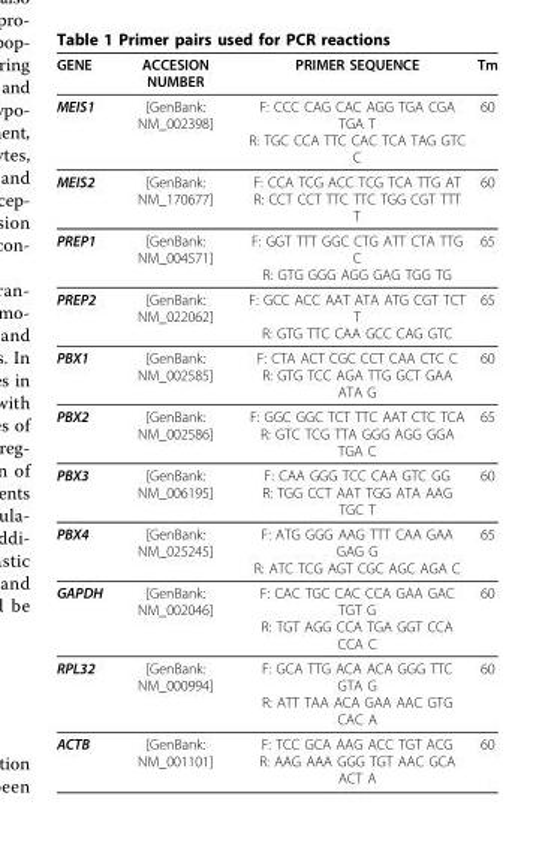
<table><thead><tr><td>GENE</td><td>ACCESION NUMBER</td><td>PRIMER SEQUENCE</td><td>Tm</td></tr></thead><tbody><tr><td>MEIS1</td><td>[GenBank: NM_002398]</td><td>F: CCC CAG CAC AGG TGA CGA TGA T R: TGC CCA TTC CAC TCA TAG GTC C</td><td>60</td></tr><tr><td>MEIS2</td><td>[GenBank: NM_170677]</td><td>F: CCA TCG ACC TCG TCA TTG AT R: CCT CCT TTC TTC TGG CGT TTT T</td><td>60</td></tr><tr><td>PREP1</td><td>[GenBank: NM_004571]</td><td>F: GGT TTT GGC CTG ATT CTA TTG C R: GTG GGG AGG GAG TGG TG</td><td>65</td></tr><tr><td>PREP2</td><td>[GenBank: NM_022062]</td><td>F: GCC ACC AAT ATA ATG CGT TCT T R: GTG TTC CAA GCC CAG GTC</td><td>65</td></tr><tr><td>PBX1</td><td>[GenBank: NM_002585]</td><td>F: CTA ACT CGC CCT CAA CTC C R: GTG TCC AGA TTG GCT GAA ATA G</td><td>60</td></tr><tr><td>PBX2</td><td>[GenBank: NM_002586]</td><td>F: GGC GGC TCT TTC AAT CTC TCA R: GTC TCG TTA GGG AGG GGA TGA C</td><td>65</td></tr><tr><td>PBX3</td><td>[GenBank: NM_006195]</td><td>F: CAA GGG TCC CAA GTC GG R: TGG CCT AAT TGG ATA AAG TGC T</td><td>60</td></tr><tr><td>PBX4</td><td>[GenBank: NM_025245]</td><td>F: ATG GGG AAG TTT CAA GAA GAG G R: ATC TCG AGT CGC AGC AGA C</td><td>65</td></tr><tr><td>GAPDH</td><td>[GenBank: NM_002046]</td><td>F: CAC TGC CAC CCA GAA GAC TGT G R: TGT AGG CCA TGA GGT CCA CCA C</td><td>60</td></tr><tr><td>RPL32</td><td>[GenBank: NM_000994]</td><td>F: GCA TTG ACA ACA GGG TTC GTA G R: ATT TAA ACA GAA AAC GTG CAC A</td><td>60</td></tr><tr><td>ACTB</td><td>[GenBank: NM_001101]</td><td>F: TCC GCA AAG ACC TGT ACG R: AAG AAA GGG TGT AAC GCA ACT A</td><td>60</td></tr></tbody></table>